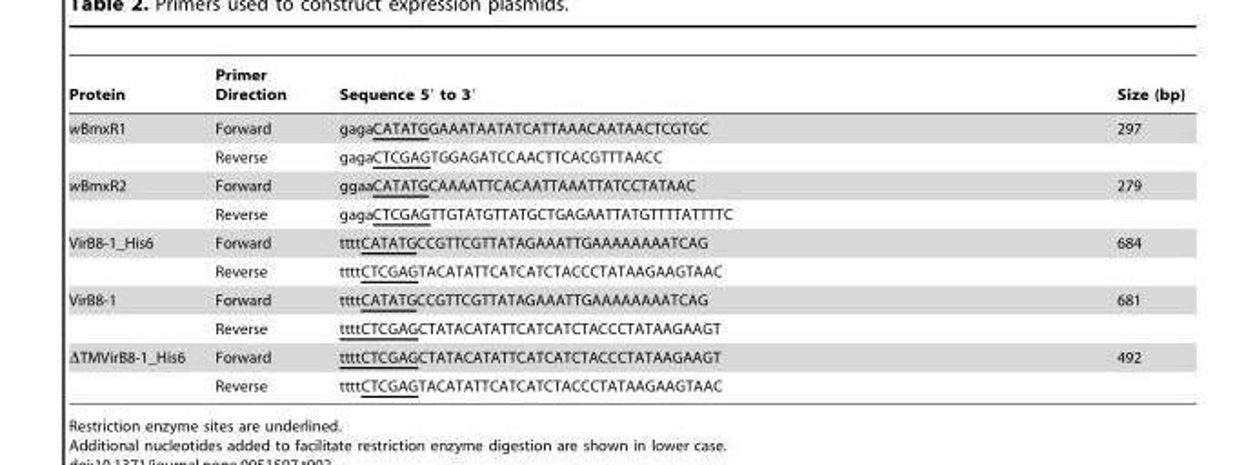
<table><thead><tr><td>Protein</td><td>Primer Direction</td><td>Sequence 5′ to 3′</td><td>Size (bp)</td></tr></thead><tbody><tr><td rowspan="2">wBmxR1</td><td>Forward</td><td>gagaCATATGGAAATAATATCATTAAACAATAACTCGTGC</td><td>297</td></tr><tr><td>Reverse</td><td>gagaCTCGAGTGGAGATCCAACTTCACGTTTAACC</td><td></td></tr><tr><td rowspan="2">wBmxR2</td><td>Forward</td><td>ggaaCATATGCAAAATTCACAATTAAATTATCCTATAAC</td><td>279</td></tr><tr><td>Reverse</td><td>gagaCTCGAGTTGTATGTTATGCTGAGAATTATGTTTTATTTTC</td><td></td></tr><tr><td rowspan="2">VirB8-1_His6</td><td>Forward</td><td>ttttCATATGCCGTTCGTTATAGAAATTGAAAAAAAATCAG</td><td>684</td></tr><tr><td>Reverse</td><td>ttttCTCGAGTACATATTCATCATCTACCCTATAAGAAGTAAC</td><td></td></tr><tr><td rowspan="2">VirB8-1</td><td>Forward</td><td>ttttCATATGCCGTTCGTTATAGAAATTGAAAAAAAATCAG</td><td>681</td></tr><tr><td>Reverse</td><td>ttttCTCGAGCTATACATATTCATCATCTACCCTATAAGAAGT</td><td></td></tr><tr><td rowspan="2">ΔTMVirB8-1_His6</td><td>Forward</td><td>ttttCTCGAGCTATACATATTCATCATCTACCCTATAAGAAGT</td><td>492</td></tr><tr><td>Reverse</td><td>ttttCTCGAGTACATATTCATCATCTACCCTATAAGAAGTAAC</td><td></td></tr></tbody></table>